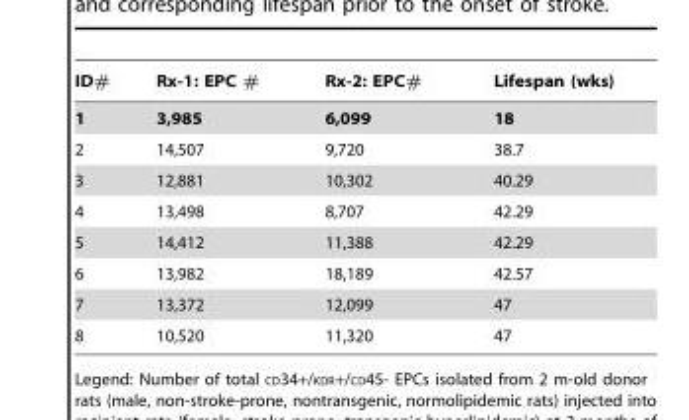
<table><thead><tr><td>ID#</td><td>Rx-1: EPC #</td><td>Rx-2: EPC#</td><td>Lifespan (wks)</td></tr></thead><tbody><tr><td>1</td><td>3,985</td><td>6,099</td><td>18</td></tr><tr><td>2</td><td>14,507</td><td>9,720</td><td>38.7</td></tr><tr><td>3</td><td>12,881</td><td>10,302</td><td>40.29</td></tr><tr><td>4</td><td>13,498</td><td>8,707</td><td>42.29</td></tr><tr><td>5</td><td>14,412</td><td>11,388</td><td>42.29</td></tr><tr><td>6</td><td>13,982</td><td>18,189</td><td>42.57</td></tr><tr><td>7</td><td>13,372</td><td>12,099</td><td>47</td></tr><tr><td>8</td><td>10,520</td><td>11,320</td><td>47</td></tr></tbody></table>